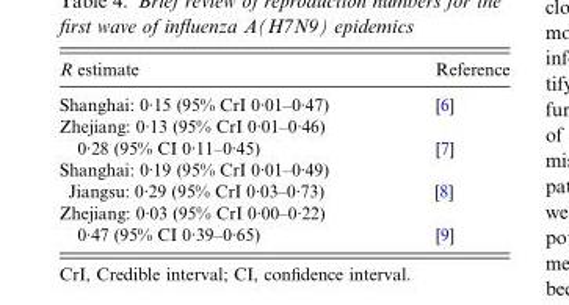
<table><thead><tr><td>R estimate</td><td>Reference</td></tr></thead><tbody><tr><td>Shanghai: 0·15 (95% CrI 0·01–0·47) Zhejiang: 0·13 (95% CrI 0·01–0·46)</td><td>[6]</td></tr><tr><td>0·28 (95% CI 0·11–0·45)</td><td>[7]</td></tr><tr><td>Shanghai: 0·19 (95% CrI 0·01–0·49) Jiangsu: 0·29 (95% CrI 0·03–0·73) Zhejiang: 0·03 (95% CrI 0·00–0·22)</td><td>[8]</td></tr><tr><td>0·47 (95% CI 0·39–0·65)</td><td>[9]</td></tr></tbody></table>